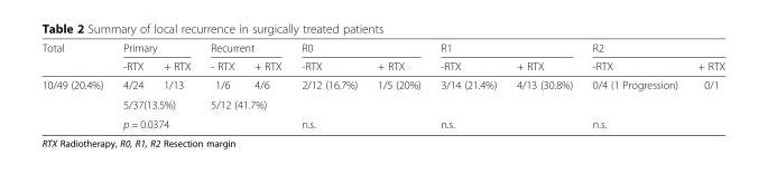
<table><thead><tr><td rowspan="2">Total</td><td colspan="2">Primary</td><td colspan="2">Recurrent</td><td colspan="2">R0</td><td colspan="2">R1</td><td colspan="2">R2</td></tr><tr><td>-RTX</td><td>+ RTX</td><td>- RTX</td><td>+ RTX</td><td>-RTX</td><td>+ RTX</td><td>-RTX</td><td>+ RTX</td><td>-RTX</td><td>+ RTX</td></tr></thead><tbody><tr><td rowspan="3">10/49 (20.4%)</td><td>4/24</td><td>1/13</td><td>1/6</td><td>4/6</td><td rowspan="2">2/12 (16.7%)</td><td rowspan="2">1/5 (20%)</td><td rowspan="2">3/14 (21.4%)</td><td rowspan="2">4/13 (30.8%)</td><td rowspan="2">0/4 (1 Progression)</td><td rowspan="2">0/1</td></tr><tr><td colspan="2">5/37(13.5%)</td><td colspan="2">5/12 (41.7%)</td></tr><tr><td colspan="4">p = 0.0374</td><td colspan="2">n.s.</td><td colspan="2">n.s.</td><td colspan="2">n.s.</td></tr></tbody></table>